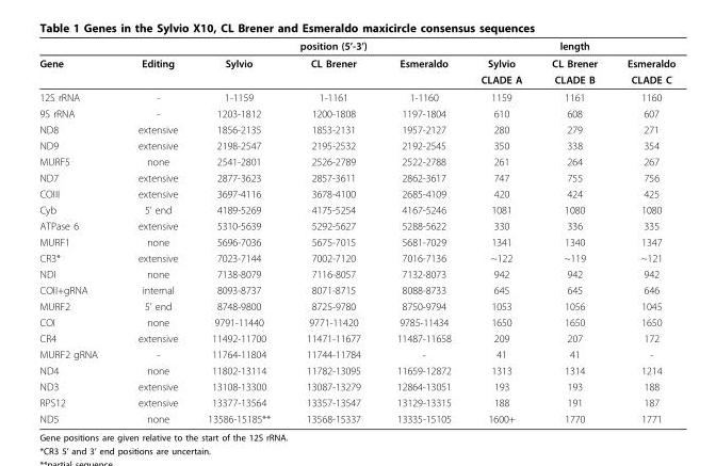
<table><thead><tr><td></td><td></td><td></td><td>position (5’-3’)</td><td></td><td></td><td>length</td><td></td></tr></thead><tbody><tr><td rowspan="2">Gene</td><td>Editing</td><td>Sylvio</td><td>CL Brener</td><td>Esmeraldo</td><td>Sylvio</td><td>CL Brener</td><td>Esmeraldo</td></tr><tr><td></td><td></td><td></td><td></td><td>CLADE A</td><td>CLADE B</td><td>CLADE C</td></tr><tr><td>12S rRNA</td><td>-</td><td>1-1159</td><td>1-1161</td><td>1-1160</td><td>1159</td><td>1161</td><td>1160</td></tr><tr><td>9S rRNA</td><td>-</td><td>1203-1812</td><td>1200-1808</td><td>1197-1804</td><td>610</td><td>608</td><td>607</td></tr><tr><td>ND8</td><td>extensive</td><td>1856-2135</td><td>1853-2131</td><td>1957-2127</td><td>280</td><td>279</td><td>271</td></tr><tr><td>ND9</td><td>extensive</td><td>2198-2547</td><td>2195-2532</td><td>2192-2545</td><td>350</td><td>338</td><td>354</td></tr><tr><td>MURF5</td><td>none</td><td>2541-2801</td><td>2526-2789</td><td>2522-2788</td><td>261</td><td>264</td><td>267</td></tr><tr><td>ND7</td><td>extensive</td><td>2877-3623</td><td>2857-3611</td><td>2862-3617</td><td>747</td><td>755</td><td>756</td></tr><tr><td>COIII</td><td>extensive</td><td>3697-4116</td><td>3678-4100</td><td>2685-4109</td><td>420</td><td>424</td><td>425</td></tr><tr><td>Cyb</td><td>5’ end</td><td>4189-5269</td><td>4175-5254</td><td>4167-5246</td><td>1081</td><td>1080</td><td>1080</td></tr><tr><td>ATPase 6</td><td>extensive</td><td>5310-5639</td><td>5292-5627</td><td>5288-5622</td><td>330</td><td>336</td><td>335</td></tr><tr><td>MURF1</td><td>none</td><td>5696-7036</td><td>5675-7015</td><td>5681-7029</td><td>1341</td><td>1340</td><td>1347</td></tr><tr><td>CR3*</td><td>extensive</td><td>7023-7144</td><td>7002-7120</td><td>7016-7136</td><td>~122</td><td>~119</td><td>~121</td></tr><tr><td>NDI</td><td>none</td><td>7138-8079</td><td>7116-8057</td><td>7132-8073</td><td>942</td><td>942</td><td>942</td></tr><tr><td>COII+gRNA</td><td>internal</td><td>8093-8737</td><td>8071-8715</td><td>8088-8733</td><td>645</td><td>645</td><td>646</td></tr><tr><td>MURF2</td><td>5’ end</td><td>8748-9800</td><td>8725-9780</td><td>8750-9794</td><td>1053</td><td>1056</td><td>1045</td></tr><tr><td>COI</td><td>none</td><td>9791-11440</td><td>9771-11420</td><td>9785-11434</td><td>1650</td><td>1650</td><td>1650</td></tr><tr><td>CR4</td><td>extensive</td><td>11492-11700</td><td>11471-11677</td><td>11487-11658</td><td>209</td><td>207</td><td>172</td></tr><tr><td>MURF2 gRNA</td><td>-</td><td>11764-11804</td><td>11744-11784</td><td>-</td><td>41</td><td>41</td><td>-</td></tr><tr><td>ND4</td><td>none</td><td>11802-13114</td><td>11782-13095</td><td>11659-12872</td><td>1313</td><td>1314</td><td>1214</td></tr><tr><td>ND3</td><td>extensive</td><td>13108-13300</td><td>13087-13279</td><td>12864-13051</td><td>193</td><td>193</td><td>188</td></tr><tr><td>RPS12</td><td>extensive</td><td>13377-13564</td><td>13357-13547</td><td>13129-13315</td><td>188</td><td>191</td><td>187</td></tr><tr><td>ND5</td><td>none</td><td>13586-15185**</td><td>13568-15337</td><td>13335-15105</td><td>1600+</td><td>1770</td><td>1771</td></tr></tbody></table>